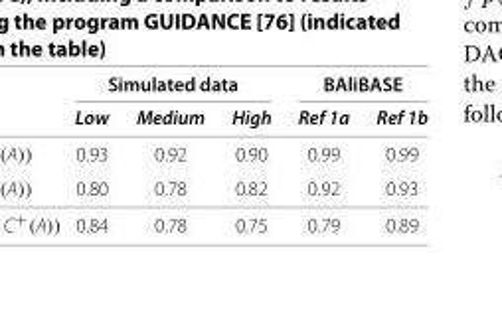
<table><thead><tr><td colspan="3">Simulated data</td><td colspan="2">BAliBASE</td></tr><tr><td>Low</td><td>Medium</td><td>High</td><td>Ref 1a</td><td>Ref 1b</td></tr></thead><tbody><tr><td>0.93</td><td>0.92</td><td>0.90</td><td>0.99</td><td>0.99</td></tr><tr><td>0.80</td><td>0.78</td><td>0.82</td><td>0.92</td><td>0.93</td></tr><tr><td>0.84</td><td>0.78</td><td>0.75</td><td>0.79</td><td>0.89</td></tr></tbody></table>